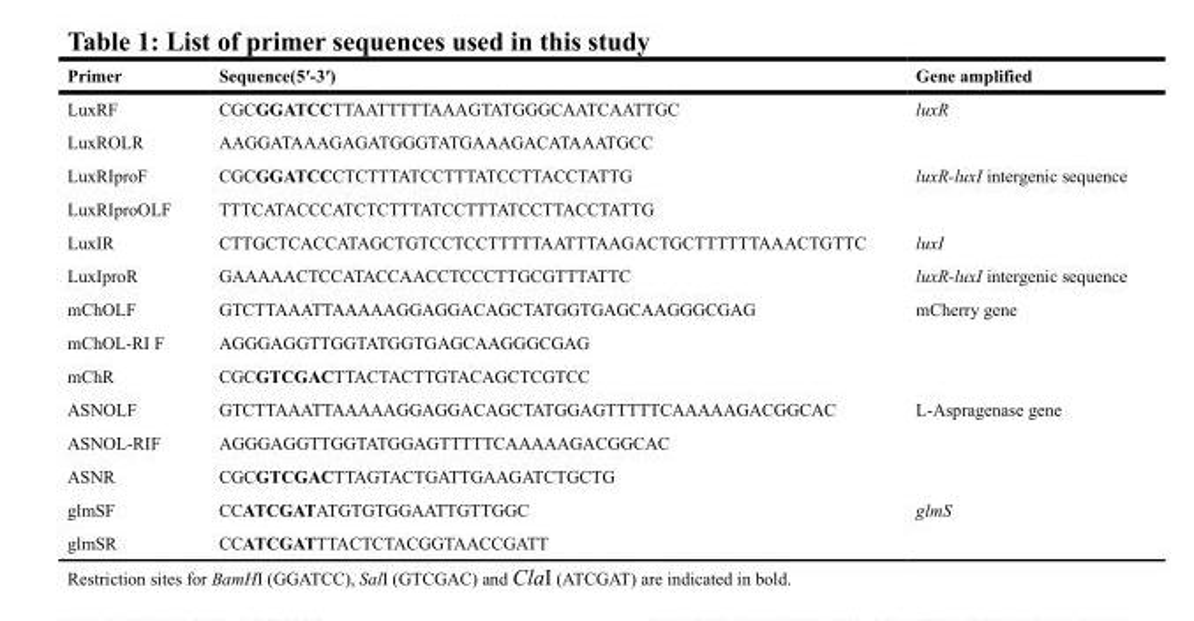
<table><thead><tr><td>Primer</td><td>Sequence(5′-3′)</td><td>Gene amplified</td></tr></thead><tbody><tr><td>LuxRF</td><td>CGCGGATCCTTAATTTTTAAAGTATGGGCAATCAATTGC</td><td>luxR</td></tr><tr><td>LuxROLR</td><td>AAGGATAAAGAGATGGGTATGAAAGACATAAATGCC</td><td></td></tr><tr><td>LuxRIproF</td><td>CGCGGATCCCTCTTTATCCTTTATCCTTACCTATTG</td><td>luxR-luxI intergenic sequence</td></tr><tr><td>LuxRIproOLF</td><td>TTTCATACCCATCTCTTTATCCTTTATCCTTACCTATTG</td><td></td></tr><tr><td>LuxIR</td><td>CTTGCTCACCATAGCTGTCCTCCTTTTTAATTTAAGACTGCTTTTTTAAACTGTTC</td><td>luxI</td></tr><tr><td>LuxIproR</td><td>GAAAAACTCCATACCAACCTCCCTTGCGTTTATTC</td><td>luxR-luxI intergenic sequence</td></tr><tr><td>mChOLF</td><td>GTCTTAAATTAAAAAGGAGGACAGCTATGGTGAGCAAGGGCGAG</td><td>mCherry gene</td></tr><tr><td>mChOL-RI F</td><td>AGGGAGGTTGGTATGGTGAGCAAGGGCGAG</td><td></td></tr><tr><td>mChR</td><td>CGCGTCGACTTACTACTTGTACAGCTCGTCC</td><td></td></tr><tr><td>ASNOLF</td><td>GTCTTAAATTAAAAAGGAGGACAGCTATGGAGTTTTTCAAAAAGACGGCAC</td><td>L-Aspragenase gene</td></tr><tr><td>ASNOL-RIF</td><td>AGGGAGGTTGGTATGGAGTTTTTCAAAAAGACGGCAC</td><td></td></tr><tr><td>ASNR</td><td>CGCGTCGACTTAGTACTGATTGAAGATCTGCTG</td><td></td></tr><tr><td>glmSF</td><td>CCATCGATATGTGTGGAATTGTTGGC</td><td>glmS</td></tr><tr><td>glmSR</td><td>CCATCGATTTACTCTACGGTAACCGATT</td><td></td></tr></tbody></table>